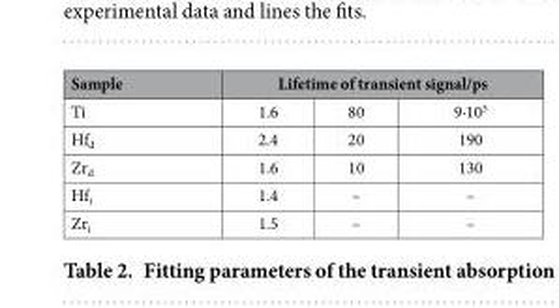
<table><thead><tr><td rowspan="2">Sample Ti</td><td colspan="3">Lifetime of transient signal/ps</td></tr><tr><td>1.6</td><td>80</td><td>9·10<sup>3</sup></td></tr></thead><tbody><tr><td>Hf<sub>d</sub></td><td>2.4</td><td>20</td><td>190</td></tr><tr><td>Zr<sub>d</sub></td><td>1.6</td><td>10</td><td>130</td></tr><tr><td>Hf<sub>i</sub></td><td>1.4</td><td>–</td><td>–</td></tr><tr><td>Zr<sub>i</sub></td><td>1.5</td><td>–</td><td>–</td></tr></tbody></table>